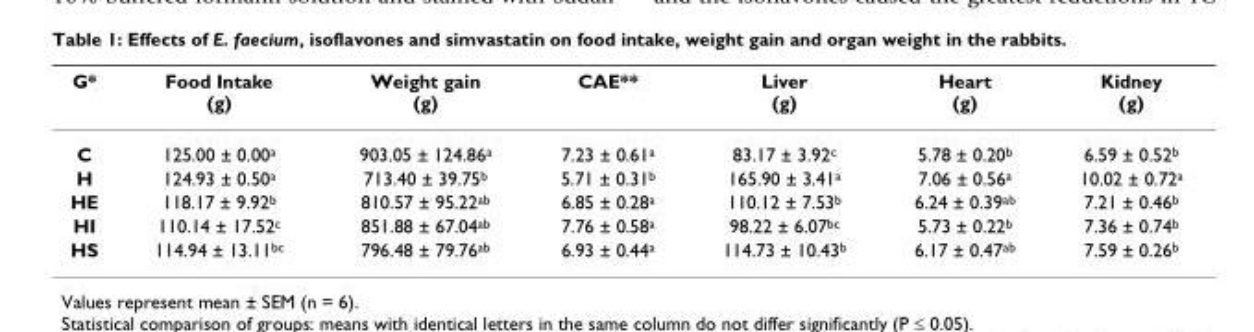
<table><thead><tr><td>G*</td><td>Food Intake (g)</td><td>Weight gain (g)</td><td>CAE**</td><td>Liver (g)</td><td>Heart (g)</td><td>Kidney (g)</td></tr></thead><tbody><tr><td>C</td><td>125.00 ± 0.00<sup>a</sup></td><td>903.05 ± 124.86<sup>a</sup></td><td>7.23 ± 0.61<sup>a</sup></td><td>83.17 ± 3.92<sup>c</sup></td><td>5.78 ± 0.20<sup>b</sup></td><td>6.59 ± 0.52<sup>b</sup></td></tr><tr><td>H</td><td>124.93 ± 0.50<sup>a</sup></td><td>713.40 ± 39.75<sup>b</sup></td><td>5.71 ± 0.31<sup>b</sup></td><td>165.90 ± 3.41<sup>a</sup></td><td>7.06 ± 0.56<sup>a</sup></td><td>10.02 ± 0.72<sup>a</sup></td></tr><tr><td>HE</td><td>118.17 ± 9.92<sup>b</sup></td><td>810.57 ± 95.22<sup>ab</sup></td><td>6.85 ± 0.28<sup>a</sup></td><td>110.12 ± 7.53<sup>b</sup></td><td>6.24 ± 0.39<sup>ab</sup></td><td>7.21 ± 0.46<sup>b</sup></td></tr><tr><td>HI</td><td>110.14 ± 17.52<sup>c</sup></td><td>851.88 ± 67.04<sup>ab</sup></td><td>7.76 ± 0.58<sup>a</sup></td><td>98.22 ± 6.07<sup>bc</sup></td><td>5.73 ± 0.22<sup>b</sup></td><td>7.36 ± 0.74<sup>b</sup></td></tr><tr><td>HS</td><td>114.94 ± 13.11<sup>bc</sup></td><td>796.48 ± 79.76<sup>ab</sup></td><td>6.93 ± 0.44<sup>a</sup></td><td>114.73 ± 10.43<sup>b</sup></td><td>6.17 ± 0.47<sup>ab</sup></td><td>7.59 ± 0.26<sup>b</sup></td></tr></tbody></table>